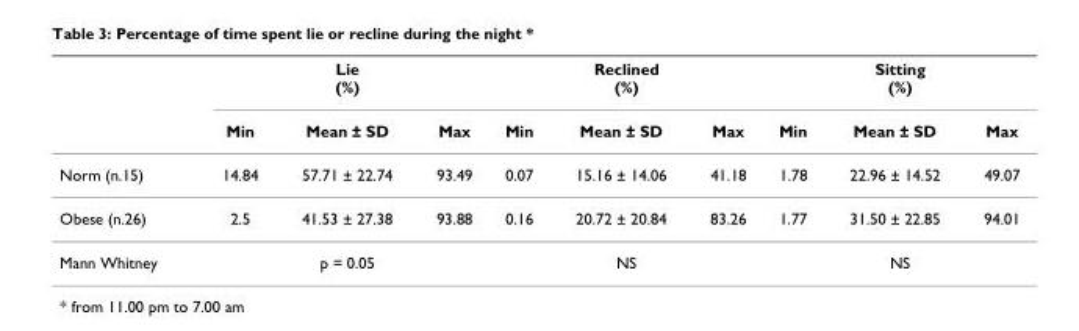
<table><thead><tr><td rowspan="2"></td><td colspan="3">Lie (%)</td><td colspan="3">Reclined (%)</td><td colspan="3">Sitting (%)</td></tr><tr><td>Min</td><td>Mean ± SD</td><td>Max</td><td>Min</td><td>Mean ± SD</td><td>Max</td><td>Min</td><td>Mean ± SD</td><td>Max</td></tr></thead><tbody><tr><td>Norm (n.15)</td><td>14.84</td><td>57.71 ± 22.74</td><td>93.49</td><td>0.07</td><td>15.16 ± 14.06</td><td>41.18</td><td>1.78</td><td>22.96 ± 14.52</td><td>49.07</td></tr><tr><td>Obese (n.26)</td><td>2.5</td><td>41.53 ± 27.38</td><td>93.88</td><td>0.16</td><td>20.72 ± 20.84</td><td>83.26</td><td>1.77</td><td>31.50 ± 22.85</td><td>94.01</td></tr><tr><td>Mann Whitney</td><td colspan="3">p = 0.05</td><td colspan="3">NS</td><td colspan="3">NS</td></tr></tbody></table>